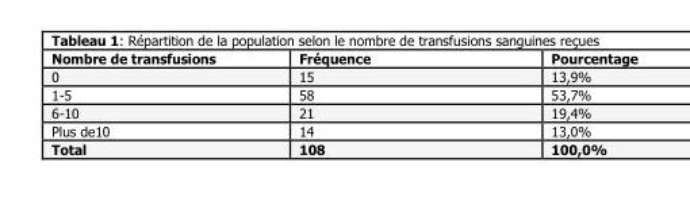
<table><thead><tr><td>Nombre de transfusions</td><td>Fréquence</td><td>Pourcentage</td></tr></thead><tbody><tr><td>0</td><td>15</td><td>13,9%</td></tr><tr><td>1-5</td><td>58</td><td>53,7%</td></tr><tr><td>6-10</td><td>21</td><td>19,4%</td></tr><tr><td>Plus de10</td><td>14</td><td>13,0%</td></tr><tr><td>Total</td><td>108</td><td>100,0%</td></tr></tbody></table>